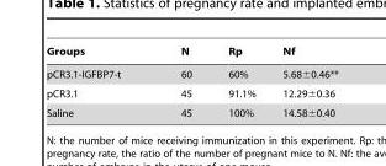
<table><thead><tr><td>Groups</td><td>N</td><td>Rp</td><td>Nf</td></tr></thead><tbody><tr><td>pCR3.1-IGFBP7-t</td><td>60</td><td>60%</td><td>5.68±0.46**</td></tr><tr><td>pCR3.1</td><td>45</td><td>91.1%</td><td>12.29±0.36</td></tr><tr><td>Saline</td><td>45</td><td>100%</td><td>14.58±0.40</td></tr></tbody></table>